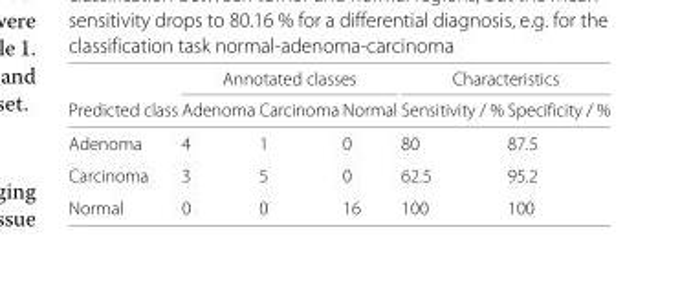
<table><thead><tr><td rowspan="2">Predicted class</td><td colspan="3">Annotated classes</td><td colspan="2">Characteristics</td></tr><tr><td>Adenoma</td><td>Carcinoma</td><td>Normal</td><td>Sensitivity / %</td><td>Specificity / %</td></tr></thead><tbody><tr><td>Adenoma</td><td>4</td><td>1</td><td>0</td><td>80</td><td>87.5</td></tr><tr><td>Carcinoma</td><td>3</td><td>5</td><td>0</td><td>62.5</td><td>95.2</td></tr><tr><td>Normal</td><td>0</td><td>0</td><td>16</td><td>100</td><td>100</td></tr></tbody></table>